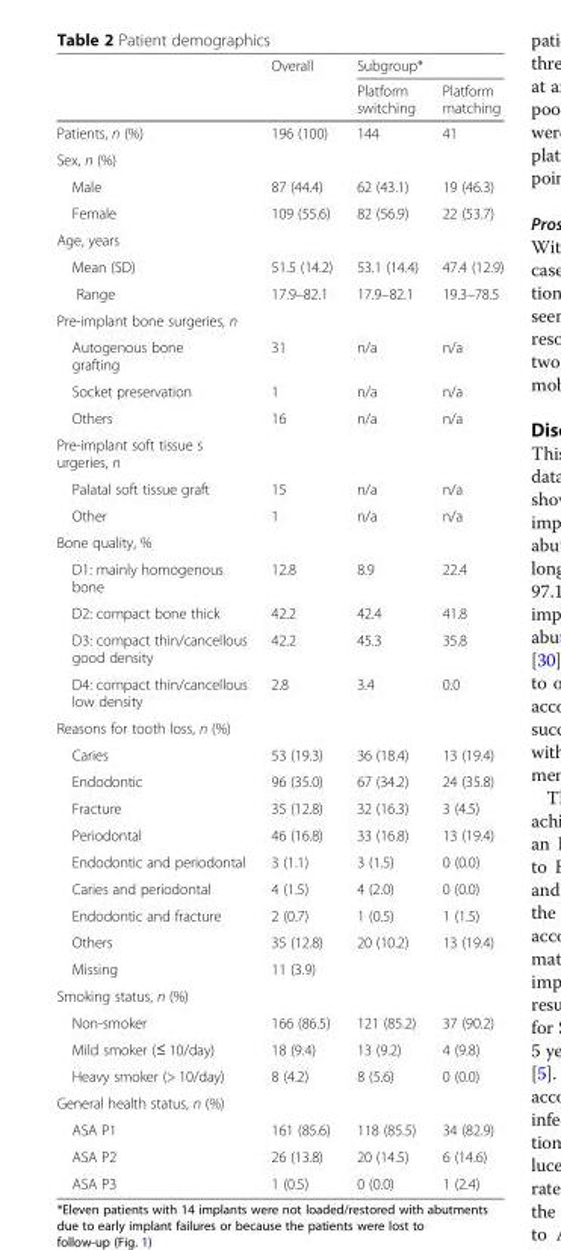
<table><thead><tr><td rowspan="2"></td><td rowspan="2">Overall</td><td colspan="2">Subgroup*</td></tr><tr><td>Platform switching</td><td>Platform matching</td></tr></thead><tbody><tr><td>Patients, n (%)</td><td>196 (100)</td><td>144</td><td>41</td></tr><tr><td colspan="4">Sex, n (%)</td></tr><tr><td>Male</td><td>87 (44.4)</td><td>62 (43.1)</td><td>19 (46.3)</td></tr><tr><td>Female</td><td>109 (55.6)</td><td>82 (56.9)</td><td>22 (53.7)</td></tr><tr><td colspan="4">Age, years</td></tr><tr><td>Mean (SD)</td><td>51.5 (14.2)</td><td>53.1 (14.4)</td><td>47.4 (12.9)</td></tr><tr><td>Range</td><td>17.9–82.1</td><td>17.9–82.1</td><td>19.3–78.5</td></tr><tr><td colspan="4">Pre-implant bone surgeries, n</td></tr><tr><td>Autogenous bone grafting</td><td>31</td><td>n/a</td><td>n/a</td></tr><tr><td>Socket preservation</td><td>1</td><td>n/a</td><td>n/a</td></tr><tr><td>Others</td><td>16</td><td>n/a</td><td>n/a</td></tr><tr><td colspan="4">Pre-implant soft tissue s urgeries, n</td></tr><tr><td>Palatal soft tissue graft</td><td>15</td><td>n/a</td><td>n/a</td></tr><tr><td>Other</td><td>1</td><td>n/a</td><td>n/a</td></tr><tr><td colspan="4">Bone quality, %</td></tr><tr><td>D1: mainly homogenous bone</td><td>12.8</td><td>8.9</td><td>22.4</td></tr><tr><td>D2: compact bone thick</td><td>42.2</td><td>42.4</td><td>41.8</td></tr><tr><td>D3: compact thin/cancellous good density</td><td>42.2</td><td>45.3</td><td>35.8</td></tr><tr><td>D4: compact thin/cancellous low density</td><td>2.8</td><td>3.4</td><td>0.0</td></tr><tr><td colspan="4">Reasons for tooth loss, n (%)</td></tr><tr><td>Caries</td><td>53 (19.3)</td><td>36 (18.4)</td><td>13 (19.4)</td></tr><tr><td>Endodontic</td><td>96 (35.0)</td><td>67 (34.2)</td><td>24 (35.8)</td></tr><tr><td>Fracture</td><td>35 (12.8)</td><td>32 (16.3)</td><td>3 (4.5)</td></tr><tr><td>Periodontal</td><td>46 (16.8)</td><td>33 (16.8)</td><td>13 (19.4)</td></tr><tr><td>Endodontic and periodontal</td><td>3 (1.1)</td><td>3 (1.5)</td><td>0 (0.0)</td></tr><tr><td>Caries and periodontal</td><td>4 (1.5)</td><td>4 (2.0)</td><td>0 (0.0)</td></tr><tr><td>Endodontic and fracture</td><td>2 (0.7)</td><td>1 (0.5)</td><td>1 (1.5)</td></tr><tr><td>Others</td><td>35 (12.8)</td><td>20 (10.2)</td><td>13 (19.4)</td></tr><tr><td>Missing</td><td>11 (3.9)</td><td></td><td></td></tr><tr><td colspan="4">Smoking status, n (%)</td></tr><tr><td>Non-smoker</td><td>166 (86.5)</td><td>121 (85.2)</td><td>37 (90.2)</td></tr><tr><td>Mild smoker (≤ 10/day)</td><td>18 (9.4)</td><td>13 (9.2)</td><td>4 (9.8)</td></tr><tr><td>Heavy smoker (&gt; 10/day)</td><td>8 (4.2)</td><td>8 (5.6)</td><td>0 (0.0)</td></tr><tr><td colspan="4">General health status, n (%)</td></tr><tr><td>ASA P1</td><td>161 (85.6)</td><td>118 (85.5)</td><td>34 (82.9)</td></tr><tr><td>ASA P2</td><td>26 (13.8)</td><td>20 (14.5)</td><td>6 (14.6)</td></tr><tr><td>ASA P3</td><td>1 (0.5)</td><td>0 (0.0)</td><td>1 (2.4)</td></tr></tbody></table>